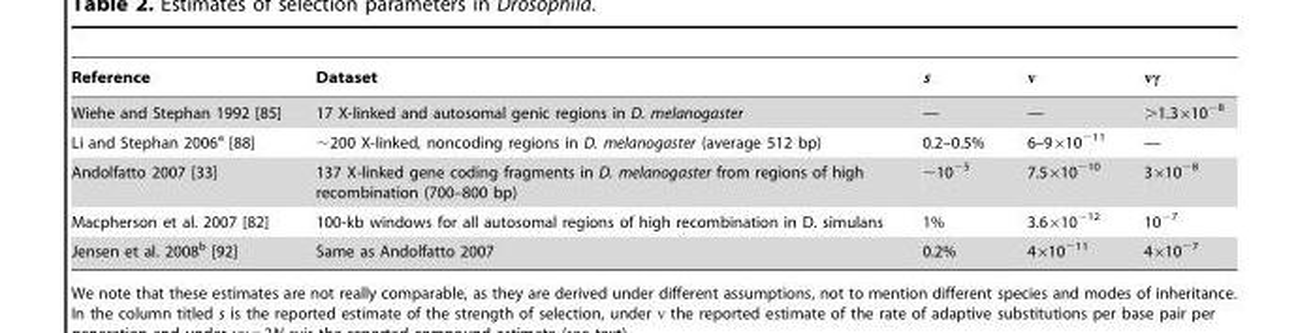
<table><thead><tr><td>Reference</td><td>Dataset</td><td>s</td><td>ν</td><td>νγ</td></tr></thead><tbody><tr><td>Wiehe and Stephan 1992 [85]</td><td>17 X-linked and autosomal genic regions in D. melanogaster</td><td>—</td><td>—</td><td>&gt;1.3×10<sup>−8</sup></td></tr><tr><td>Li and Stephan 2006<sup>a</sup> [88]</td><td>∼200 X-linked, noncoding regions in D. melanogaster (average 512 bp)</td><td>0.2–0.5%</td><td>6–9×10<sup>−11</sup></td><td>—</td></tr><tr><td>Andolfatto 2007 [33]</td><td>137 X-linked gene coding fragments in D. melanogaster from regions of high recombination (700–800 bp)</td><td>∼10<sup>−5</sup></td><td>7.5×10<sup>−10</sup></td><td>3×10<sup>−8</sup></td></tr><tr><td>Macpherson et al. 2007 [82]</td><td>100-kb windows for all autosomal regions of high recombination in D. simulans</td><td>1%</td><td>3.6×10<sup>−12</sup></td><td>10<sup>−7</sup></td></tr><tr><td>Jensen et al. 2008<sup>b</sup> [92]</td><td>Same as Andolfatto 2007</td><td>0.2%</td><td>4×10<sup>−11</sup></td><td>4×10<sup>−7</sup></td></tr></tbody></table>